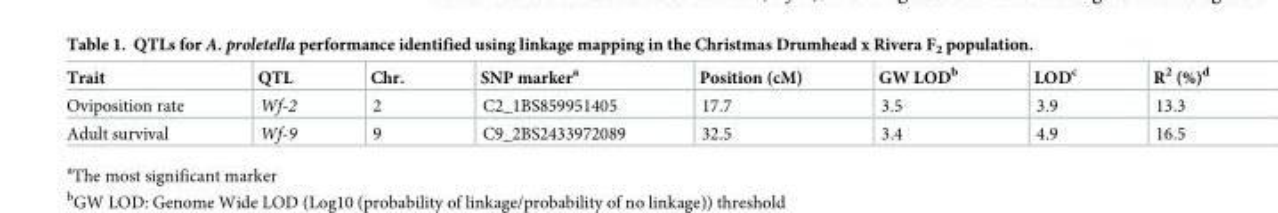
<table><thead><tr><td>Trait</td><td>QTL</td><td>Chr.</td><td>SNP marker<sup>a</sup></td><td>Position (cM)</td><td>GW LOD<sup>b</sup></td><td>LOD<sup>c</sup></td><td>R<sup>2</sup> (%)<sup>d</sup></td></tr></thead><tbody><tr><td>Oviposition rate</td><td>Wf-2</td><td>2</td><td>C2_1BS859951405</td><td>17.7</td><td>3.5</td><td>3.9</td><td>13.3</td></tr><tr><td>Adult survival</td><td>Wf-9</td><td>9</td><td>C9_2BS2433972089</td><td>32.5</td><td>3.4</td><td>4.9</td><td>16.5</td></tr></tbody></table>